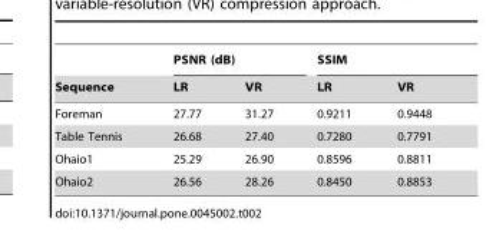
<table><thead><tr><td rowspan="2">Sequence</td><td colspan="2">PSNR (dB)</td><td colspan="2">SSIM</td></tr><tr><td>LR</td><td>VR</td><td>LR</td><td>VR</td></tr></thead><tbody><tr><td>Foreman</td><td>27.77</td><td>31.27</td><td>0.9211</td><td>0.9448</td></tr><tr><td>Table Tennis</td><td>26.68</td><td>27.40</td><td>0.7280</td><td>0.7791</td></tr><tr><td>Ohaio1</td><td>25.29</td><td>26.90</td><td>0.8596</td><td>0.8811</td></tr><tr><td>Ohaio2</td><td>26.56</td><td>28.26</td><td>0.8450</td><td>0.8853</td></tr></tbody></table>